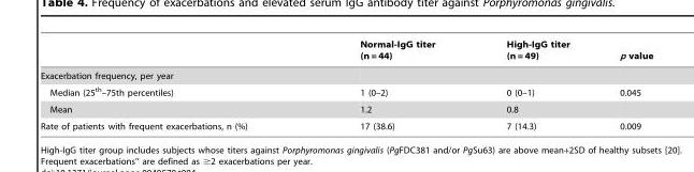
<table><thead><tr><td></td><td>Normal-IgG titer (n = 44)</td><td>High-IgG titer (n = 49)</td><td>p value</td></tr></thead><tbody><tr><td colspan="4">Exacerbation frequency, per year</td></tr><tr><td>Median (25<sup>th</sup>–75th percentiles)</td><td>1 (0–2)</td><td>0 (0–1)</td><td>0.045</td></tr><tr><td>Mean</td><td>1.2</td><td>0.8</td><td></td></tr><tr><td>Rate of patients with frequent exacerbations, n (%)</td><td>17 (38.6)</td><td>7 (14.3)</td><td>0.009</td></tr></tbody></table>